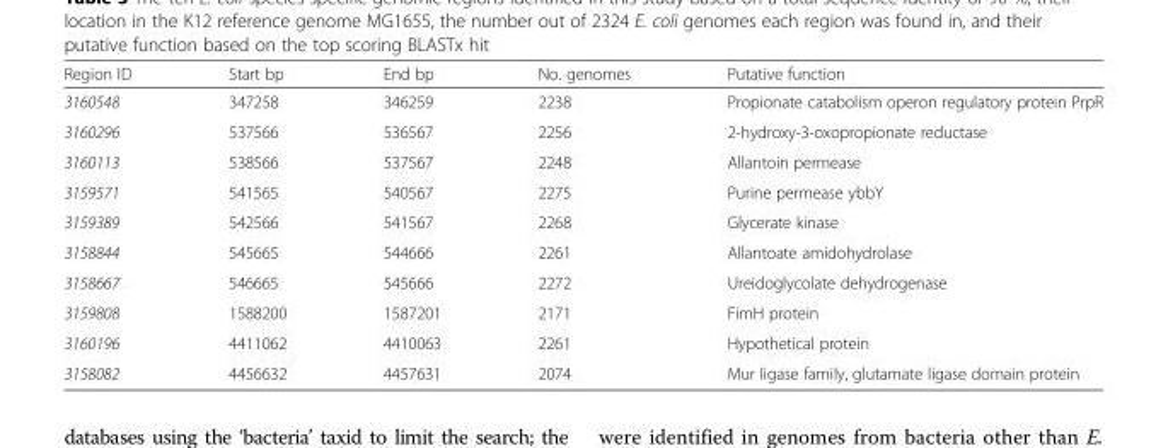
<table><thead><tr><td>Region ID</td><td>Start bp</td><td>End bp</td><td>No. genomes</td><td>Putative function</td></tr></thead><tbody><tr><td>3160548</td><td>347258</td><td>346259</td><td>2238</td><td>Propionate catabolism operon regulatory protein PrpR</td></tr><tr><td>3160296</td><td>537566</td><td>536567</td><td>2256</td><td>2-hydroxy-3-oxopropionate reductase</td></tr><tr><td>3160113</td><td>538566</td><td>537567</td><td>2248</td><td>Allantoin permease</td></tr><tr><td>3159571</td><td>541565</td><td>540567</td><td>2275</td><td>Purine permease ybbY</td></tr><tr><td>3159389</td><td>542566</td><td>541567</td><td>2268</td><td>Glycerate kinase</td></tr><tr><td>3158844</td><td>545665</td><td>544666</td><td>2261</td><td>Allantoate amidohydrolase</td></tr><tr><td>3158667</td><td>546665</td><td>545666</td><td>2272</td><td>Ureidoglycolate dehydrogenase</td></tr><tr><td>3159808</td><td>1588200</td><td>1587201</td><td>2171</td><td>FimH protein</td></tr><tr><td>3160196</td><td>4411062</td><td>4410063</td><td>2261</td><td>Hypothetical protein</td></tr><tr><td>3158082</td><td>4456632</td><td>4457631</td><td>2074</td><td>Mur ligase family, glutamate ligase domain protein</td></tr></tbody></table>